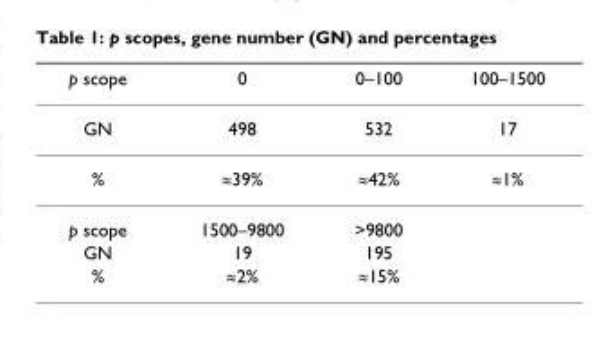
<table><thead><tr><td>p scope</td><td>0</td><td>0–100</td><td>100–1500</td></tr></thead><tbody><tr><td>GN</td><td>498</td><td>532</td><td>17</td></tr><tr><td>%</td><td>≈39%</td><td>≈42%</td><td>≈1%</td></tr><tr><td>p scope</td><td>1500–9800</td><td>&gt;9800</td><td></td></tr><tr><td>GN</td><td>19</td><td>195</td><td></td></tr><tr><td>%</td><td>≈2%</td><td>≈15%</td><td></td></tr></tbody></table>